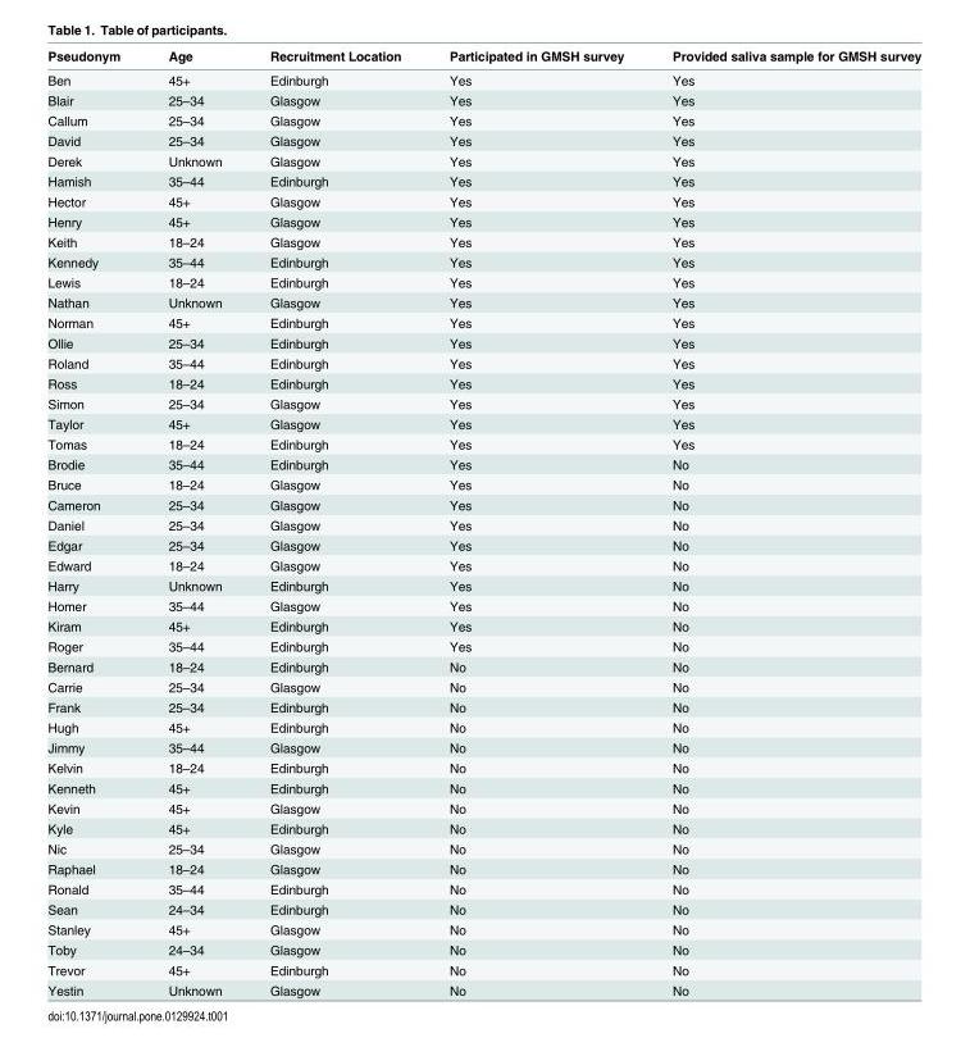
<table><thead><tr><td>Pseudonym</td><td>Age</td><td>Recruitment Location</td><td>Participated in GMSH survey</td><td>Provided saliva sample for GMSH survey</td></tr></thead><tbody><tr><td>Ben</td><td>45+</td><td>Edinburgh</td><td>Yes</td><td>Yes</td></tr><tr><td>Blair</td><td>25–34</td><td>Glasgow</td><td>Yes</td><td>Yes</td></tr><tr><td>Callum</td><td>25–34</td><td>Glasgow</td><td>Yes</td><td>Yes</td></tr><tr><td>David</td><td>25–34</td><td>Glasgow</td><td>Yes</td><td>Yes</td></tr><tr><td>Derek</td><td>Unknown</td><td>Glasgow</td><td>Yes</td><td>Yes</td></tr><tr><td>Hamish</td><td>35–44</td><td>Edinburgh</td><td>Yes</td><td>Yes</td></tr><tr><td>Hector</td><td>45+</td><td>Glasgow</td><td>Yes</td><td>Yes</td></tr><tr><td>Henry</td><td>45+</td><td>Glasgow</td><td>Yes</td><td>Yes</td></tr><tr><td>Keith</td><td>18–24</td><td>Glasgow</td><td>Yes</td><td>Yes</td></tr><tr><td>Kennedy</td><td>35–44</td><td>Edinburgh</td><td>Yes</td><td>Yes</td></tr><tr><td>Lewis</td><td>18–24</td><td>Edinburgh</td><td>Yes</td><td>Yes</td></tr><tr><td>Nathan</td><td>Unknown</td><td>Glasgow</td><td>Yes</td><td>Yes</td></tr><tr><td>Norman</td><td>45+</td><td>Edinburgh</td><td>Yes</td><td>Yes</td></tr><tr><td>Ollie</td><td>25–34</td><td>Edinburgh</td><td>Yes</td><td>Yes</td></tr><tr><td>Roland</td><td>35–44</td><td>Edinburgh</td><td>Yes</td><td>Yes</td></tr><tr><td>Ross</td><td>18–24</td><td>Edinburgh</td><td>Yes</td><td>Yes</td></tr><tr><td>Simon</td><td>25–34</td><td>Glasgow</td><td>Yes</td><td>Yes</td></tr><tr><td>Taylor</td><td>45+</td><td>Glasgow</td><td>Yes</td><td>Yes</td></tr><tr><td>Tomas</td><td>18–24</td><td>Edinburgh</td><td>Yes</td><td>Yes</td></tr><tr><td>Brodie</td><td>35–44</td><td>Edinburgh</td><td>Yes</td><td>No</td></tr><tr><td>Bruce</td><td>18–24</td><td>Glasgow</td><td>Yes</td><td>No</td></tr><tr><td>Cameron</td><td>25–34</td><td>Glasgow</td><td>Yes</td><td>No</td></tr><tr><td>Daniel</td><td>25–34</td><td>Glasgow</td><td>Yes</td><td>No</td></tr><tr><td>Edgar</td><td>25–34</td><td>Glasgow</td><td>Yes</td><td>No</td></tr><tr><td>Edward</td><td>18–24</td><td>Glasgow</td><td>Yes</td><td>No</td></tr><tr><td>Harry</td><td>Unknown</td><td>Edinburgh</td><td>Yes</td><td>No</td></tr><tr><td>Homer</td><td>35–44</td><td>Glasgow</td><td>Yes</td><td>No</td></tr><tr><td>Kiram</td><td>45+</td><td>Edinburgh</td><td>Yes</td><td>No</td></tr><tr><td>Roger</td><td>35–44</td><td>Edinburgh</td><td>Yes</td><td>No</td></tr><tr><td>Bernard</td><td>18–24</td><td>Edinburgh</td><td>No</td><td>No</td></tr><tr><td>Carrie</td><td>25–34</td><td>Glasgow</td><td>No</td><td>No</td></tr><tr><td>Frank</td><td>25–34</td><td>Edinburgh</td><td>No</td><td>No</td></tr><tr><td>Hugh</td><td>45+</td><td>Edinburgh</td><td>No</td><td>No</td></tr><tr><td>Jimmy</td><td>35–44</td><td>Glasgow</td><td>No</td><td>No</td></tr><tr><td>Kelvin</td><td>18–24</td><td>Edinburgh</td><td>No</td><td>No</td></tr><tr><td>Kenneth</td><td>45+</td><td>Edinburgh</td><td>No</td><td>No</td></tr><tr><td>Kevin</td><td>45+</td><td>Glasgow</td><td>No</td><td>No</td></tr><tr><td>Kyle</td><td>45+</td><td>Edinburgh</td><td>No</td><td>No</td></tr><tr><td>Nic</td><td>25–34</td><td>Glasgow</td><td>No</td><td>No</td></tr><tr><td>Raphael</td><td>18–24</td><td>Glasgow</td><td>No</td><td>No</td></tr><tr><td>Ronald</td><td>35–44</td><td>Edinburgh</td><td>No</td><td>No</td></tr><tr><td>Sean</td><td>24–34</td><td>Edinburgh</td><td>No</td><td>No</td></tr><tr><td>Stanley</td><td>45+</td><td>Glasgow</td><td>No</td><td>No</td></tr><tr><td>Toby</td><td>24–34</td><td>Glasgow</td><td>No</td><td>No</td></tr><tr><td>Trevor</td><td>45+</td><td>Edinburgh</td><td>No</td><td>No</td></tr><tr><td>Yestin</td><td>Unknown</td><td>Glasgow</td><td>No</td><td>No</td></tr></tbody></table>